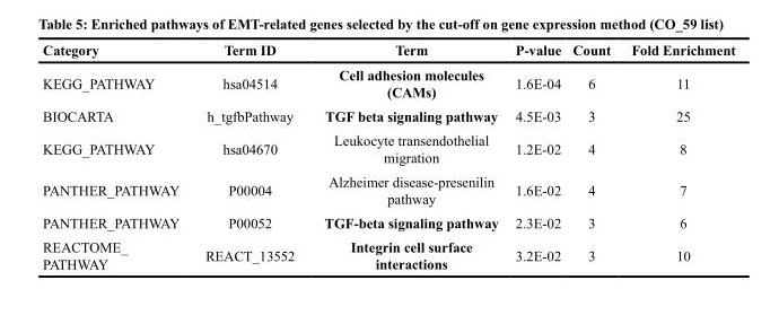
<table><thead><tr><td>Category</td><td>Term ID</td><td>Term</td><td>P-value</td><td>Count</td><td>Fold Enrichment</td></tr></thead><tbody><tr><td>KEGG_PATHWAY</td><td>hsa04514</td><td>Cell adhesion molecules (CAMs)</td><td>1.6E-04</td><td>6</td><td>11</td></tr><tr><td>BIOCARTA</td><td>h_tgfbPathway</td><td>TGF beta signaling pathway</td><td>4.5E-03</td><td>3</td><td>25</td></tr><tr><td>KEGG_PATHWAY</td><td>hsa04670</td><td>Leukocyte transendothelial migration</td><td>1.2E-02</td><td>4</td><td>8</td></tr><tr><td>PANTHER_PATHWAY</td><td>P00004</td><td>Alzheimer disease-presenilin pathway</td><td>1.6E-02</td><td>4</td><td>7</td></tr><tr><td>PANTHER_PATHWAY</td><td>P00052</td><td>TGF-beta signaling pathway</td><td>2.3E-02</td><td>3</td><td>6</td></tr><tr><td>REACTOME_ PATHWAY</td><td>REACT_13552</td><td>Integrin cell surface interactions</td><td>3.2E-02</td><td>3</td><td>10</td></tr></tbody></table>